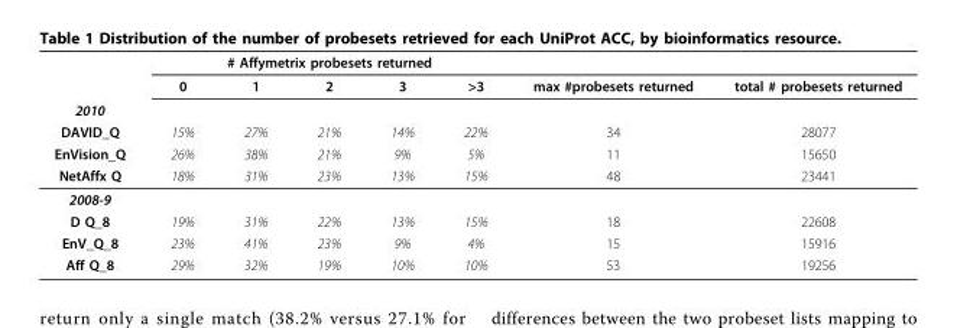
<table><thead><tr><td rowspan="6">2010 DAVID_Q EnVision_Q NetAffx Q</td><td colspan="5"># Affymetrix probesets returned</td><td rowspan="6">max #probesets returned 34 11 48</td><td rowspan="6">total # probesets returned 28077 15650 23441</td></tr><tr><td rowspan="5">0 15% 26% 18%</td><td rowspan="5">1 27% 38% 31%</td><td rowspan="5">2 21% 21% 23%</td><td rowspan="5">3 14% 9% 13%</td><td rowspan="5">&gt;3 22% 5% 15%</td></tr><tr></tr><tr></tr><tr></tr><tr></tr></thead><tbody><tr><td colspan="8">2008-9</td></tr><tr><td>D Q_8</td><td>19%</td><td>31%</td><td>22%</td><td>13%</td><td>15%</td><td>18</td><td>22608</td></tr><tr><td>EnV_Q_8</td><td>23%</td><td>41%</td><td>23%</td><td>9%</td><td>4%</td><td>15</td><td>15916</td></tr><tr><td>Aff Q_8</td><td>29%</td><td>32%</td><td>19%</td><td>10%</td><td>10%</td><td>53</td><td>19256</td></tr></tbody></table>